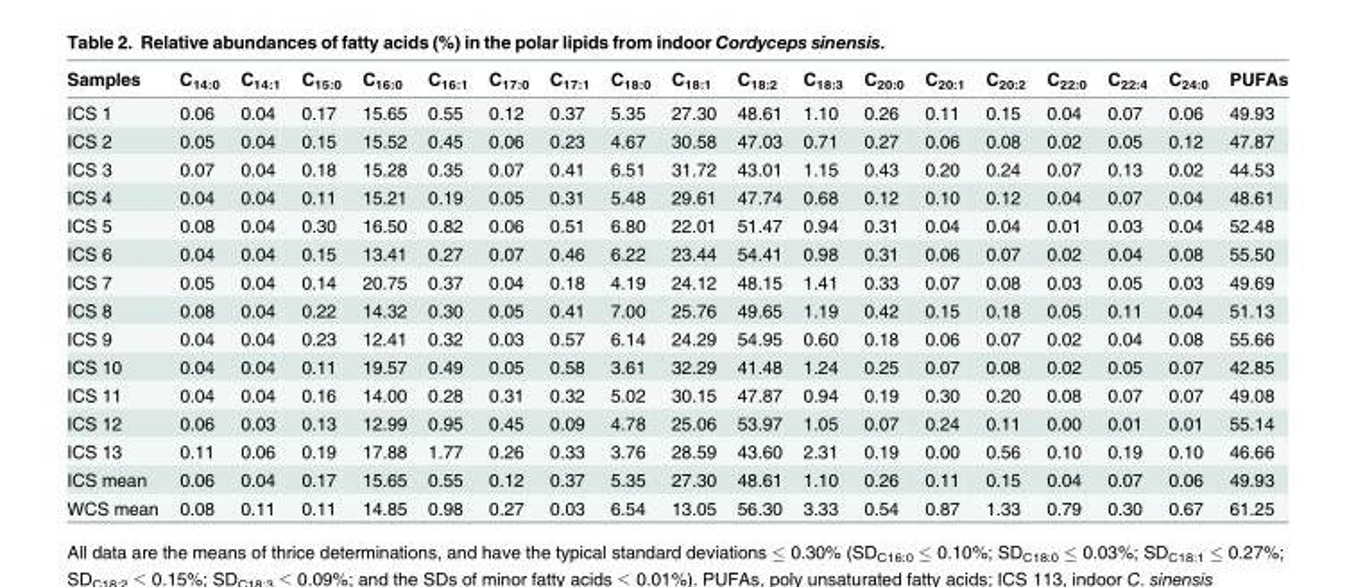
<table><thead><tr><td>Samples</td><td>C<sub>14:0</sub></td><td>C<sub>14:1</sub></td><td>C<sub>15:0</sub></td><td>C<sub>16:0</sub></td><td>C<sub>16:1</sub></td><td>C<sub>17:0</sub></td><td>C<sub>17:1</sub></td><td>C<sub>18:0</sub></td><td>C<sub>18:1</sub></td><td>C<sub>18:2</sub></td><td>C<sub>18:3</sub></td><td>C<sub>20:0</sub></td><td>C<sub>20:1</sub></td><td>C<sub>20:2</sub></td><td>C<sub>22:0</sub></td><td>C<sub>22:4</sub></td><td>C<sub>24:0</sub></td><td>PUFAs</td></tr></thead><tbody><tr><td>ICS 1</td><td>0.06</td><td>0.04</td><td>0.17</td><td>15.65</td><td>0.55</td><td>0.12</td><td>0.37</td><td>5.35</td><td>27.30</td><td>48.61</td><td>1.10</td><td>0.26</td><td>0.11</td><td>0.15</td><td>0.04</td><td>0.07</td><td>0.06</td><td>49.93</td></tr><tr><td>ICS 2</td><td>0.05</td><td>0.04</td><td>0.15</td><td>15.52</td><td>0.45</td><td>0.06</td><td>0.23</td><td>4.67</td><td>30.58</td><td>47.03</td><td>0.71</td><td>0.27</td><td>0.06</td><td>0.08</td><td>0.02</td><td>0.05</td><td>0.12</td><td>47.87</td></tr><tr><td>ICS 3</td><td>0.07</td><td>0.04</td><td>0.18</td><td>15.28</td><td>0.35</td><td>0.07</td><td>0.41</td><td>6.51</td><td>31.72</td><td>43.01</td><td>1.15</td><td>0.43</td><td>0.20</td><td>0.24</td><td>0.07</td><td>0.13</td><td>0.02</td><td>44.53</td></tr><tr><td>ICS 4</td><td>0.04</td><td>0.04</td><td>0.11</td><td>15.21</td><td>0.19</td><td>0.05</td><td>0.31</td><td>5.48</td><td>29.61</td><td>47.74</td><td>0.68</td><td>0.12</td><td>0.10</td><td>0.12</td><td>0.04</td><td>0.07</td><td>0.04</td><td>48.61</td></tr><tr><td>ICS 5</td><td>0.08</td><td>0.04</td><td>0.30</td><td>16.50</td><td>0.82</td><td>0.06</td><td>0.51</td><td>6.80</td><td>22.01</td><td>51.47</td><td>0.94</td><td>0.31</td><td>0.04</td><td>0.04</td><td>0.01</td><td>0.03</td><td>0.04</td><td>52.48</td></tr><tr><td>ICS 6</td><td>0.04</td><td>0.04</td><td>0.15</td><td>13.41</td><td>0.27</td><td>0.07</td><td>0.46</td><td>6.22</td><td>23.44</td><td>54.41</td><td>0.98</td><td>0.31</td><td>0.06</td><td>0.07</td><td>0.02</td><td>0.04</td><td>0.08</td><td>55.50</td></tr><tr><td>ICS 7</td><td>0.05</td><td>0.04</td><td>0.14</td><td>20.75</td><td>0.37</td><td>0.04</td><td>0.18</td><td>4.19</td><td>24.12</td><td>48.15</td><td>1.41</td><td>0.33</td><td>0.07</td><td>0.08</td><td>0.03</td><td>0.05</td><td>0.03</td><td>49.69</td></tr><tr><td>ICS 8</td><td>0.08</td><td>0.04</td><td>0.22</td><td>14.32</td><td>0.30</td><td>0.05</td><td>0.41</td><td>7.00</td><td>25.76</td><td>49.65</td><td>1.19</td><td>0.42</td><td>0.15</td><td>0.18</td><td>0.05</td><td>0.11</td><td>0.04</td><td>51.13</td></tr><tr><td>ICS 9</td><td>0.04</td><td>0.04</td><td>0.23</td><td>12.41</td><td>0.32</td><td>0.03</td><td>0.57</td><td>6.14</td><td>24.29</td><td>54.95</td><td>0.60</td><td>0.18</td><td>0.06</td><td>0.07</td><td>0.02</td><td>0.04</td><td>0.08</td><td>55.66</td></tr><tr><td>ICS 10</td><td>0.04</td><td>0.04</td><td>0.11</td><td>19.57</td><td>0.49</td><td>0.05</td><td>0.58</td><td>3.61</td><td>32.29</td><td>41.48</td><td>1.24</td><td>0.25</td><td>0.07</td><td>0.08</td><td>0.02</td><td>0.05</td><td>0.07</td><td>42.85</td></tr><tr><td>ICS 11</td><td>0.04</td><td>0.04</td><td>0.16</td><td>14.00</td><td>0.28</td><td>0.31</td><td>0.32</td><td>5.02</td><td>30.15</td><td>47.87</td><td>0.94</td><td>0.19</td><td>0.30</td><td>0.20</td><td>0.08</td><td>0.07</td><td>0.07</td><td>49.08</td></tr><tr><td>ICS 12</td><td>0.06</td><td>0.03</td><td>0.13</td><td>12.99</td><td>0.95</td><td>0.45</td><td>0.09</td><td>4.78</td><td>25.06</td><td>53.97</td><td>1.05</td><td>0.07</td><td>0.24</td><td>0.11</td><td>0.00</td><td>0.01</td><td>0.01</td><td>55.14</td></tr><tr><td>ICS 13</td><td>0.11</td><td>0.06</td><td>0.19</td><td>17.88</td><td>1.77</td><td>0.26</td><td>0.33</td><td>3.76</td><td>28.59</td><td>43.60</td><td>2.31</td><td>0.19</td><td>0.00</td><td>0.56</td><td>0.10</td><td>0.19</td><td>0.10</td><td>46.66</td></tr><tr><td>ICS mean</td><td>0.06</td><td>0.04</td><td>0.17</td><td>15.65</td><td>0.55</td><td>0.12</td><td>0.37</td><td>5.35</td><td>27.30</td><td>48.61</td><td>1.10</td><td>0.26</td><td>0.11</td><td>0.15</td><td>0.04</td><td>0.07</td><td>0.06</td><td>49.93</td></tr><tr><td>WCS mean</td><td>0.08</td><td>0.11</td><td>0.11</td><td>14.85</td><td>0.98</td><td>0.27</td><td>0.03</td><td>6.54</td><td>13.05</td><td>56.30</td><td>3.33</td><td>0.54</td><td>0.87</td><td>1.33</td><td>0.79</td><td>0.30</td><td>0.67</td><td>61.25</td></tr></tbody></table>